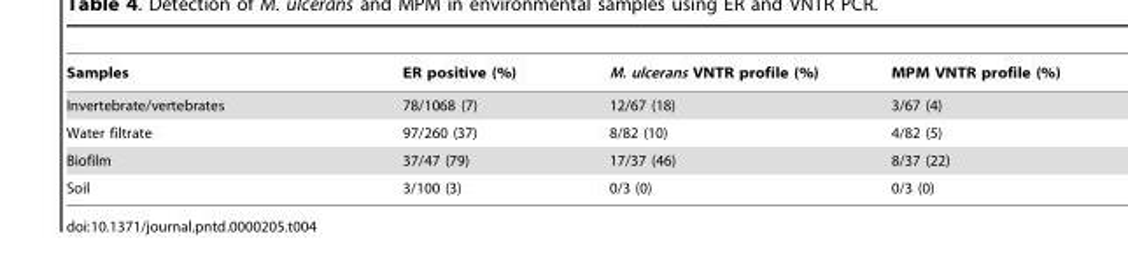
<table><thead><tr><td>Samples</td><td>ER positive (%)</td><td>M. ulcerans VNTR profile (%)</td><td>MPM VNTR profile (%)</td></tr></thead><tbody><tr><td>Invertebrate/vertebrates</td><td>78/1068 (7)</td><td>12/67 (18)</td><td>3/67 (4)</td></tr><tr><td>Water filtrate</td><td>97/260 (37)</td><td>8/82 (10)</td><td>4/82 (5)</td></tr><tr><td>Biofilm</td><td>37/47 (79)</td><td>17/37 (46)</td><td>8/37 (22)</td></tr><tr><td>Soil</td><td>3/100 (3)</td><td>0/3 (0)</td><td>0/3 (0)</td></tr></tbody></table>